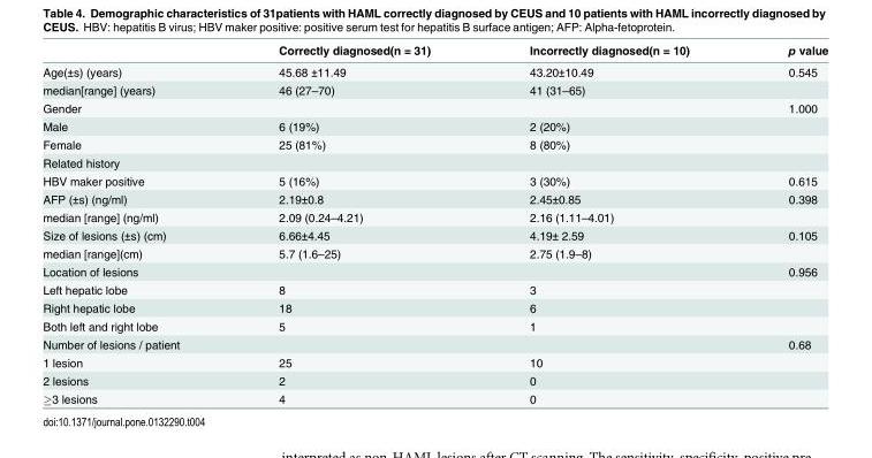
<table><thead><tr><td></td><td>Correctly diagnosed(n = 31)</td><td>Incorrectly diagnosed(n = 10)</td><td>p value</td></tr></thead><tbody><tr><td>Age(±s) (years)</td><td>45.68 ±11.49</td><td>43.20±10.49</td><td>0.545</td></tr><tr><td>median[range] (years)</td><td>46 (27–70)</td><td>41 (31–65)</td><td></td></tr><tr><td>Gender</td><td></td><td></td><td>1.000</td></tr><tr><td>Male</td><td>6 (19%)</td><td>2 (20%)</td><td></td></tr><tr><td>Female</td><td>25 (81%)</td><td>8 (80%)</td><td></td></tr><tr><td colspan="4">Related history</td></tr><tr><td>HBV maker positive</td><td>5 (16%)</td><td>3 (30%)</td><td>0.615</td></tr><tr><td>AFP (±s) (ng/ml)</td><td>2.19±0.8</td><td>2.45±0.85</td><td>0.398</td></tr><tr><td>median [range] (ng/ml)</td><td>2.09 (0.24–4.21)</td><td>2.16 (1.11–4.01)</td><td></td></tr><tr><td>Size of lesions (±s) (cm)</td><td>6.66±4.45</td><td>4.19± 2.59</td><td>0.105</td></tr><tr><td>median [range](cm)</td><td>5.7 (1.6–25)</td><td>2.75 (1.9–8)</td><td></td></tr><tr><td>Location of lesions</td><td></td><td></td><td>0.956</td></tr><tr><td>Left hepatic lobe</td><td>8</td><td>3</td><td></td></tr><tr><td>Right hepatic lobe</td><td>18</td><td>6</td><td></td></tr><tr><td>Both left and right lobe</td><td>5</td><td>1</td><td></td></tr><tr><td>Number of lesions / patient</td><td></td><td></td><td>0.68</td></tr><tr><td>1 lesion</td><td>25</td><td>10</td><td></td></tr><tr><td>2 lesions</td><td>2</td><td>0</td><td></td></tr><tr><td>≥3 lesions</td><td>4</td><td>0</td><td></td></tr></tbody></table>